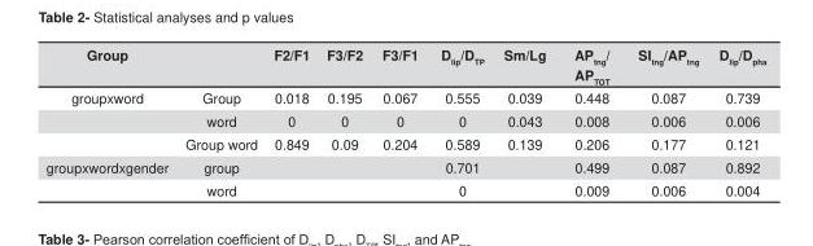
<table><thead><tr><td>Group</td><td></td><td>F2/F1</td><td>F3/F2</td><td>F3/F1</td><td>D<sub>lip</sub>/D<sub>TP</sub></td><td>Sm/Lg</td><td>AP<sub>tng</sub>/ AP<sub>TOT</sub></td><td>SI<sub>tng</sub>/AP<sub>tng</sub></td><td>D<sub>lip</sub>/D<sub>pha</sub></td></tr></thead><tbody><tr><td rowspan="3">groupxword</td><td>Group</td><td>0.018</td><td>0.195</td><td>0.067</td><td>0.555</td><td>0.039</td><td>0.448</td><td>0.087</td><td>0.739</td></tr><tr><td>word</td><td>0</td><td>0</td><td>0</td><td>0</td><td>0.043</td><td>0.008</td><td>0.006</td><td>0.006</td></tr><tr><td>Group word</td><td>0.849</td><td>0.09</td><td>0.204</td><td>0.589</td><td>0.139</td><td>0.206</td><td>0.177</td><td>0.121</td></tr><tr><td rowspan="2">groupxwordxgender</td><td>group</td><td></td><td></td><td></td><td>0.701</td><td></td><td>0.499</td><td>0.087</td><td>0.892</td></tr><tr><td>word</td><td></td><td></td><td></td><td>0</td><td></td><td>0.009</td><td>0.006</td><td>0.004</td></tr></tbody></table>